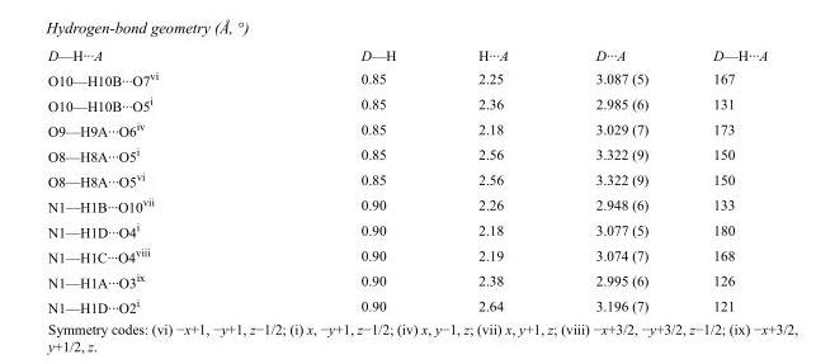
<table><tbody><tr><td>D—H···A</td><td>D—H</td><td>H···A</td><td>D···A</td><td>D—H···A</td></tr><tr><td>O10—H10B···O7<sup>vi</sup></td><td>0.85</td><td>2.25</td><td>3.087 (5)</td><td>167</td></tr><tr><td>O10—H10B···O5<sup>i</sup></td><td>0.85</td><td>2.36</td><td>2.985 (6)</td><td>131</td></tr><tr><td>O9—H9A···O6<sup>iv</sup></td><td>0.85</td><td>2.18</td><td>3.029 (7)</td><td>173</td></tr><tr><td>O8—H8A···O5<sup>i</sup></td><td>0.85</td><td>2.56</td><td>3.322 (9)</td><td>150</td></tr><tr><td>O8—H8A···O5<sup>vi</sup></td><td>0.85</td><td>2.56</td><td>3.322 (9)</td><td>150</td></tr><tr><td>N1—H1B···O10<sup>vii</sup></td><td>0.90</td><td>2.26</td><td>2.948 (6)</td><td>133</td></tr><tr><td>N1—H1D···O4<sup>i</sup></td><td>0.90</td><td>2.18</td><td>3.077 (5)</td><td>180</td></tr><tr><td>N1—H1C···O4<sup>viii</sup></td><td>0.90</td><td>2.19</td><td>3.074 (7)</td><td>168</td></tr><tr><td>N1—H1A···O3<sup>ix</sup></td><td>0.90</td><td>2.38</td><td>2.995 (6)</td><td>126</td></tr><tr><td>N1—H1D···O2<sup>i</sup></td><td>0.90</td><td>2.64</td><td>3.196 (7)</td><td>121</td></tr></tbody></table>